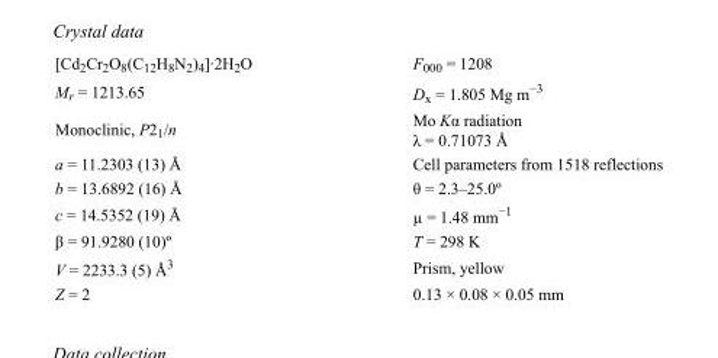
<table><tbody><tr><td>[Cd<sub>2</sub>Cr<sub>2</sub>O<sub>8</sub>(C<sub>12</sub>H<sub>8</sub>N<sub>2</sub>)<sub>4</sub>]·2H<sub>2</sub>O</td><td>F000 = 1208</td></tr><tr><td>M<sub>r</sub> = 1213.65</td><td>D<sub>x</sub> = 1.805 Mg m<sup>−3</sup></td></tr><tr><td>Monoclinic, P2<sub>1</sub>/n</td><td>Mo Kα radiation λ = 0.71073 Å</td></tr><tr><td>a = 11.2303 (13) Å</td><td>Cell parameters from 1518 reflections</td></tr><tr><td>b = 13.6892 (16) Å</td><td>θ = 2.3–25.0º</td></tr><tr><td>c = 14.5352 (19) Å</td><td>µ = 1.48 mm<sup>−1</sup></td></tr><tr><td>β = 91.9280 (10)º</td><td>T = 298 K</td></tr><tr><td>V = 2233.3 (5) Å<sup>3</sup></td><td>Prism, yellow</td></tr><tr><td>Z = 2</td><td>0.13 × 0.08 × 0.05 mm</td></tr></tbody></table>